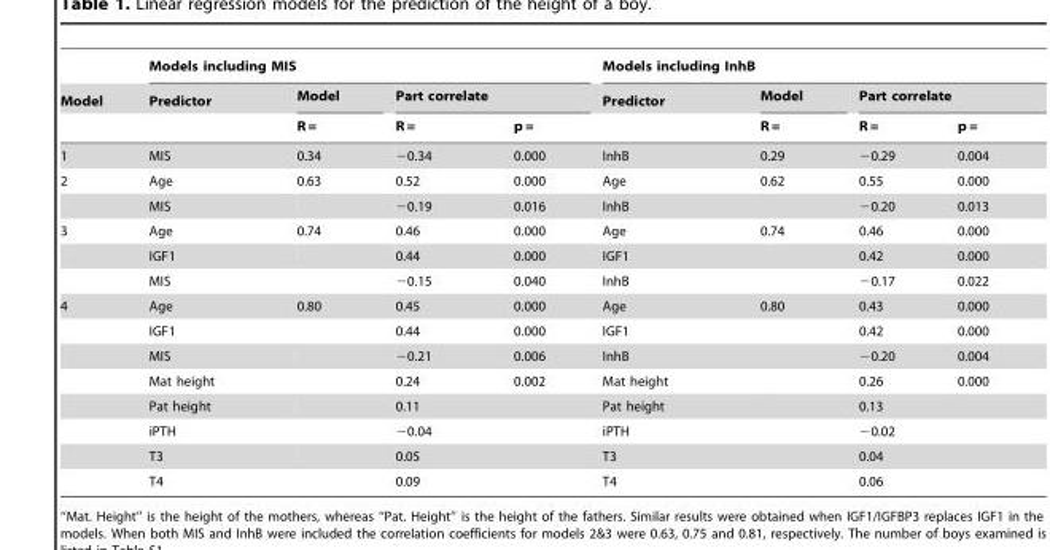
<table><thead><tr><td rowspan="3">Model</td><td colspan="4">Models including MIS</td><td colspan="4">Models including InhB</td></tr><tr><td rowspan="2">Predictor</td><td rowspan="2">Model R =</td><td colspan="2">Part correlate</td><td rowspan="2">Predictor</td><td rowspan="2">Model R =</td><td colspan="2">Part correlate</td></tr><tr><td>R =</td><td>p =</td><td>R =</td><td>p =</td></tr></thead><tbody><tr><td>1</td><td>MIS</td><td>0.34</td><td>−0.34</td><td>0.000</td><td>InhB</td><td>0.29</td><td>−0.29</td><td>0.004</td></tr><tr><td rowspan="2">2</td><td>Age</td><td>0.63</td><td>0.52</td><td>0.000</td><td>Age</td><td>0.62</td><td>0.55</td><td>0.000</td></tr><tr><td>MIS</td><td></td><td>−0.19</td><td>0.016</td><td>InhB</td><td></td><td>−0.20</td><td>0.013</td></tr><tr><td rowspan="3">3</td><td>Age</td><td>0.74</td><td>0.46</td><td>0.000</td><td>Age</td><td>0.74</td><td>0.46</td><td>0.000</td></tr><tr><td>IGF1</td><td></td><td>0.44</td><td>0.000</td><td>IGF1</td><td></td><td>0.42</td><td>0.000</td></tr><tr><td>MIS</td><td></td><td>−0.15</td><td>0.040</td><td>InhB</td><td></td><td>−0.17</td><td>0.022</td></tr><tr><td rowspan="8">4</td><td>Age</td><td>0.80</td><td>0.45</td><td>0.000</td><td>Age</td><td>0.80</td><td>0.43</td><td>0.000</td></tr><tr><td>IGF1</td><td></td><td>0.44</td><td>0.000</td><td>IGF1</td><td></td><td>0.42</td><td>0.000</td></tr><tr><td>MIS</td><td></td><td>−0.21</td><td>0.006</td><td>InhB</td><td></td><td>−0.20</td><td>0.004</td></tr><tr><td>Mat height</td><td></td><td>0.24</td><td>0.002</td><td>Mat height</td><td></td><td>0.26</td><td>0.000</td></tr><tr><td>Pat height</td><td></td><td>0.11</td><td></td><td>Pat height</td><td></td><td>0.13</td><td></td></tr><tr><td>iPTH</td><td></td><td>−0.04</td><td></td><td>iPTH</td><td></td><td>−0.02</td><td></td></tr><tr><td>T3</td><td></td><td>0.05</td><td></td><td>T3</td><td></td><td>0.04</td><td></td></tr><tr><td>T4</td><td></td><td>0.09</td><td></td><td>T4</td><td></td><td>0.06</td><td></td></tr></tbody></table>